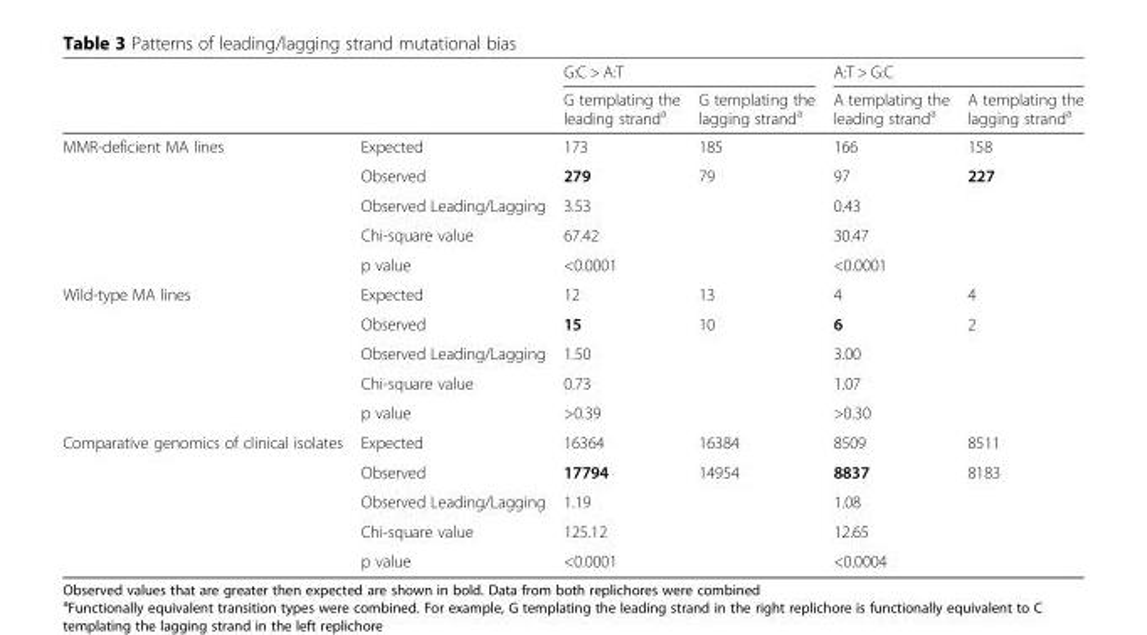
<table><thead><tr><td rowspan="2"></td><td rowspan="2"></td><td colspan="2">G:C &gt; A:T</td><td colspan="2">A:T &gt; G:C</td></tr><tr><td>G templating the leading strand<sup>a</sup></td><td>G templating the lagging strand<sup>a</sup></td><td>A templating the leading strand<sup>a</sup></td><td>A templating the lagging strand<sup>a</sup></td></tr></thead><tbody><tr><td rowspan="5">MMR-deficient MA lines</td><td>Expected</td><td>173</td><td>185</td><td>166</td><td>158</td></tr><tr><td>Observed</td><td>279</td><td>79</td><td>97</td><td>227</td></tr><tr><td>Observed Leading/Lagging</td><td>3.53</td><td></td><td>0.43</td><td></td></tr><tr><td>Chi-square value</td><td>67.42</td><td></td><td>30.47</td><td></td></tr><tr><td>p value</td><td colspan="2">&lt;0.0001</td><td colspan="2">&lt;0.0001</td></tr><tr><td rowspan="5">Wild-type MA lines</td><td>Expected</td><td>12</td><td>13</td><td>4</td><td>4</td></tr><tr><td>Observed</td><td>15</td><td>10</td><td>6</td><td>2</td></tr><tr><td>Observed Leading/Lagging</td><td>1.50</td><td></td><td>3.00</td><td></td></tr><tr><td>Chi-square value</td><td>0.73</td><td></td><td>1.07</td><td></td></tr><tr><td>p value</td><td colspan="2">&gt;0.39</td><td colspan="2">&gt;0.30</td></tr><tr><td rowspan="5">Comparative genomics of clinical isolates</td><td>Expected</td><td>16364</td><td>16384</td><td>8509</td><td>8511</td></tr><tr><td>Observed</td><td>17794</td><td>14954</td><td>8837</td><td>8183</td></tr><tr><td>Observed Leading/Lagging</td><td>1.19</td><td></td><td>1.08</td><td></td></tr><tr><td>Chi-square value</td><td>125.12</td><td></td><td>12.65</td><td></td></tr><tr><td>p value</td><td colspan="2">&lt;0.0001</td><td colspan="2">&lt;0.0004</td></tr></tbody></table>